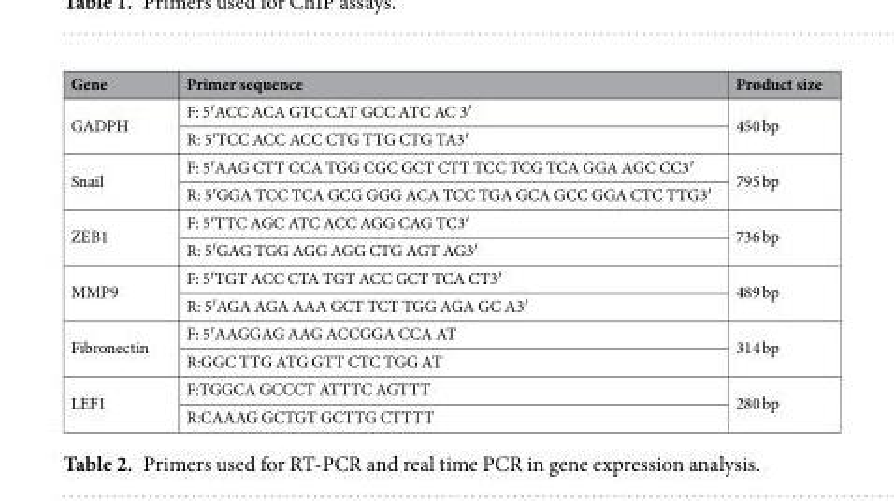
<table><thead><tr><td>Gene</td><td>Primer sequence</td><td>Product size</td></tr></thead><tbody><tr><td rowspan="2">GADPH</td><td>F: 5′ACC ACA GTC CAT GCC ATC AC 3′</td><td rowspan="2">450 bp</td></tr><tr><td>R: 5′TCC ACC ACC CTG TTG CTG TA3′</td></tr><tr><td rowspan="2">Snail</td><td>F: 5′AAG CTT CCA TGG CGC GCT CTT TCC TCG TCA GGA AGC CC3′</td><td rowspan="2">795 bp</td></tr><tr><td>R: 5′GGA TCC TCA GCG GGG ACA TCC TGA GCA GCC GGA CTC TTG3′</td></tr><tr><td rowspan="2">ZEB1</td><td>F: 5′TTC AGC ATC ACC AGG CAG TC3′</td><td rowspan="2">736 bp</td></tr><tr><td>R: 5′GAG TGG AGG AGG CTG AGT AG3′</td></tr><tr><td rowspan="2">MMP9</td><td>F: 5′TGT ACC CTA TGT ACC GCT TCA CT3′</td><td rowspan="2">489 bp</td></tr><tr><td>R: 5′AGA AGA AAA GCT TCT TGG AGA GC A3′</td></tr><tr><td rowspan="2">Fibronectin</td><td>F: 5′AAGGAG AAG ACCGGA CCA AT</td><td rowspan="2">314 bp</td></tr><tr><td>R:GGC TTG ATG GTT CTC TGG AT</td></tr><tr><td rowspan="2">LEF1</td><td>F:TGGCA GCCCT ATTTC AGTTT</td><td rowspan="2">280 bp</td></tr><tr><td>R:CAAAG GCTGT GCTTG CTTTT</td></tr></tbody></table>